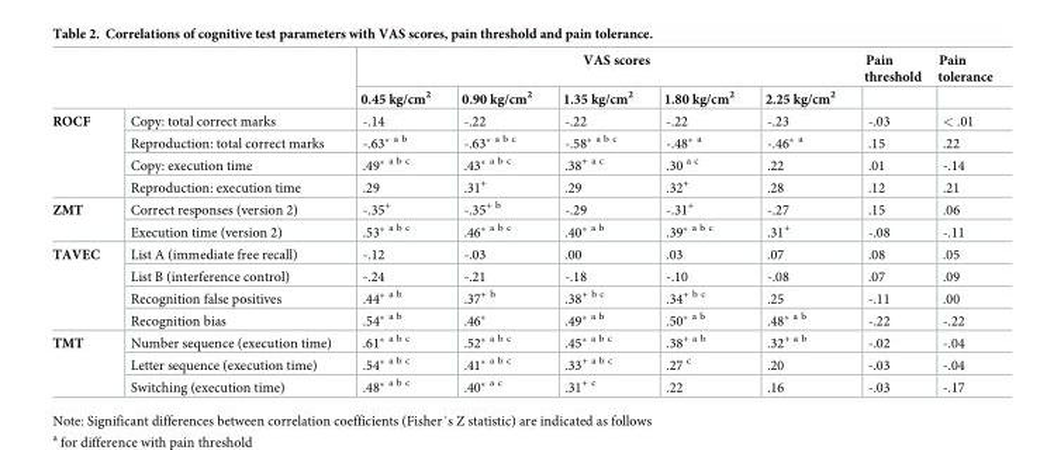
<table><thead><tr><td rowspan="2"></td><td rowspan="2"></td><td colspan="7">VAS scores Pain Pain threshold tolerance</td></tr><tr><td>0.45 kg/cm<sup>2</sup></td><td>0.90 kg/cm<sup>2</sup></td><td>1.35 kg/cm<sup>2</sup></td><td>1.80 kg/cm<sup>2</sup></td><td>2.25 kg/cm<sup>2</sup></td><td></td><td></td></tr></thead><tbody><tr><td rowspan="4">ROCF</td><td>Copy: total correct marks</td><td>-.14</td><td>-.22</td><td>-.22</td><td>-.22</td><td>-.23</td><td>-.03</td><td>&lt; .01</td></tr><tr><td>Reproduction: total correct marks</td><td>-.63* <sup>a b</sup></td><td>-.63* <sup>a b c</sup></td><td>-.58* <sup>a b c</sup></td><td>-.48* <sup>a</sup></td><td>-.46* <sup>a</sup></td><td>.15</td><td>.22</td></tr><tr><td>Copy: execution time</td><td>.49* <sup>a b c</sup></td><td>.43* <sup>a b c</sup></td><td>.38<sup>+ a c</sup></td><td>.30 <sup>a c</sup></td><td>.22</td><td>.01</td><td>-.14</td></tr><tr><td>Reproduction: execution time</td><td>.29</td><td>.31<sup>+</sup></td><td>.29</td><td>.32<sup>+</sup></td><td>.28</td><td>.12</td><td>.21</td></tr><tr><td rowspan="2">ZMT</td><td>Correct responses (version 2)</td><td>-.35<sup>+</sup></td><td>-.35<sup>+ b</sup></td><td>-.29</td><td>-.31<sup>+</sup></td><td>-.27</td><td>.15</td><td>.06</td></tr><tr><td>Execution time (version 2)</td><td>.53* <sup>a b c</sup></td><td>.46* <sup>a b c</sup></td><td>.40* <sup>a b</sup></td><td>.39* <sup>a b c</sup></td><td>.31<sup>+</sup></td><td>-.08</td><td>-.11</td></tr><tr><td rowspan="4">TAVEC</td><td>List A (immediate free recall)</td><td>-.12</td><td>-.03</td><td>.00</td><td>.03</td><td>.07</td><td>.08</td><td>.05</td></tr><tr><td>List B (interference control)</td><td>-.24</td><td>-.21</td><td>-.18</td><td>-.10</td><td>-.08</td><td>.07</td><td>.09</td></tr><tr><td>Recognition false positives</td><td>.44* <sup>a b</sup></td><td>.37<sup>+ b</sup></td><td>.38<sup>+ b c</sup></td><td>.34<sup>+ b c</sup></td><td>.25</td><td>-.11</td><td>.00</td></tr><tr><td>Recognition bias</td><td>.54* <sup>a b</sup></td><td>.46*</td><td>.49* <sup>a b</sup></td><td>.50* <sup>a b</sup></td><td>.48* <sup>a b</sup></td><td>-.22</td><td>-.22</td></tr><tr><td rowspan="3">TMT</td><td>Number sequence (execution time)</td><td>.61* <sup>a b c</sup></td><td>.52* <sup>a b c</sup></td><td>.45* <sup>a b c</sup></td><td>.38<sup>+ a b</sup></td><td>.32<sup>+ a b</sup></td><td>-.02</td><td>-.04</td></tr><tr><td>Letter sequence (execution time)</td><td>.54* <sup>a b c</sup></td><td>.41* <sup>a b c</sup></td><td>.33<sup>+ a b c</sup></td><td>.27 <sup>c</sup></td><td>.20</td><td>-.03</td><td>-.04</td></tr><tr><td>Switching (execution time)</td><td>.48* <sup>a b c</sup></td><td>.40* <sup>a c</sup></td><td>.31<sup>+ c</sup></td><td>.22</td><td>.16</td><td>-.03</td><td>-.17</td></tr></tbody></table>